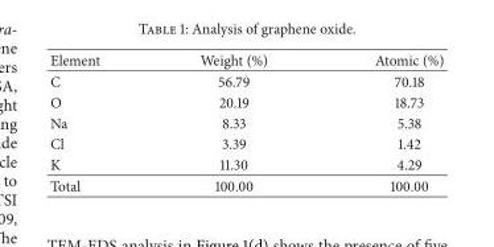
<table><thead><tr><td>Element</td><td>Weight (%)</td><td>Atomic (%)</td></tr></thead><tbody><tr><td>C</td><td>56.79</td><td>70.18</td></tr><tr><td>O</td><td>20.19</td><td>18.73</td></tr><tr><td>Na</td><td>8.33</td><td>5.38</td></tr><tr><td>Cl</td><td>3.39</td><td>1.42</td></tr><tr><td>K</td><td>11.30</td><td>4.29</td></tr><tr><td>Total</td><td>100.00</td><td>100.00</td></tr></tbody></table>